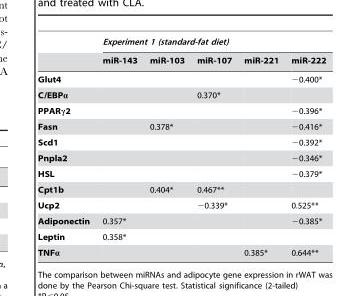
<table><thead><tr><td rowspan="2"></td><td colspan="5">Experiment 1 (standard-fat diet)</td></tr><tr><td>miR-143</td><td>miR-103</td><td>miR-107</td><td>miR-221</td><td>miR-222</td></tr></thead><tbody><tr><td>Glut4</td><td></td><td></td><td></td><td></td><td>−0.400*</td></tr><tr><td>C/EBPα</td><td></td><td></td><td>0.370*</td><td></td><td></td></tr><tr><td>PPARγ2</td><td></td><td></td><td></td><td></td><td>−0.396*</td></tr><tr><td>Fasn</td><td></td><td>0.378*</td><td></td><td></td><td>−0.416*</td></tr><tr><td>Scd1</td><td></td><td></td><td></td><td></td><td>−0.392*</td></tr><tr><td>Pnpla2</td><td></td><td></td><td></td><td></td><td>−0.346*</td></tr><tr><td>HSL</td><td></td><td></td><td></td><td></td><td>−0.379*</td></tr><tr><td>Cpt1b</td><td></td><td>0.404*</td><td>0.467**</td><td></td><td></td></tr><tr><td>Ucp2</td><td></td><td></td><td>−0.339*</td><td></td><td>0.525**</td></tr><tr><td>Adiponectin</td><td>0.357*</td><td></td><td></td><td></td><td>−0.385*</td></tr><tr><td>Leptin</td><td>0.358*</td><td></td><td></td><td></td><td></td></tr><tr><td>TNFα</td><td></td><td></td><td></td><td>0.385*</td><td>0.644**</td></tr></tbody></table>